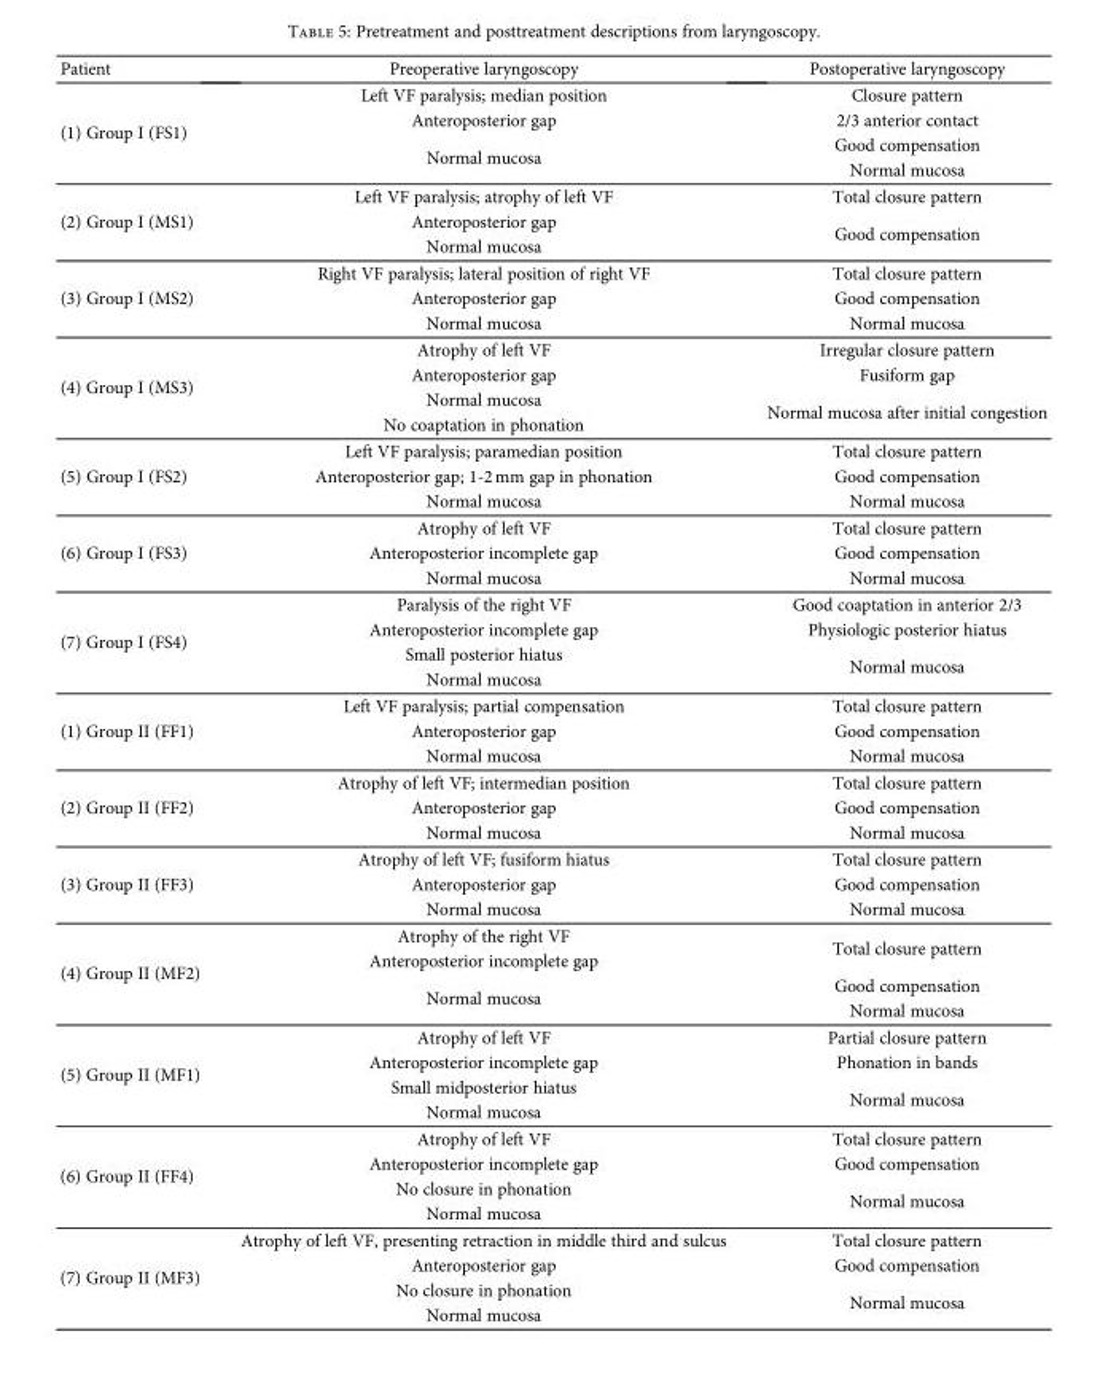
<table><thead><tr><td>Patient</td><td>Preoperative laryngoscopy</td><td>Postoperative laryngoscopy</td></tr></thead><tbody><tr><td rowspan="4">(1) Group I (FS1)</td><td>Left VF paralysis; median position</td><td>Closure pattern</td></tr><tr><td>Anteroposterior gap</td><td>2/3 anterior contact</td></tr><tr><td rowspan="2">Normal mucosa</td><td>Good compensation</td></tr><tr><td>Normal mucosa</td></tr><tr><td rowspan="3">(2) Group I (MS1)</td><td>Left VF paralysis; atrophy of left VF</td><td>Total closure pattern</td></tr><tr><td>Anteroposterior gap</td><td rowspan="2">Good compensation</td></tr><tr><td>Normal mucosa</td></tr><tr><td rowspan="3">(3) Group I (MS2)</td><td>Right VF paralysis; lateral position of right VF</td><td>Total closure pattern</td></tr><tr><td>Anteroposterior gap</td><td>Good compensation</td></tr><tr><td>Normal mucosa</td><td>Normal mucosa</td></tr><tr><td rowspan="4">(4) Group I (MS3)</td><td>Atrophy of left VF</td><td>Irregular closure pattern</td></tr><tr><td>Anteroposterior gap</td><td>Fusiform gap</td></tr><tr><td>Normal mucosa</td><td rowspan="2">Normal mucosa after initial congestion</td></tr><tr><td>No coaptation in phonation</td></tr><tr><td rowspan="3">(5) Group I (FS2)</td><td>Left VF paralysis; paramedian position</td><td>Total closure pattern</td></tr><tr><td>Anteroposterior gap; 1-2 mm gap in phonation</td><td>Good compensation</td></tr><tr><td>Normal mucosa</td><td>Normal mucosa</td></tr><tr><td rowspan="3">(6) Group I (FS3)</td><td>Atrophy of left VF</td><td>Total closure pattern</td></tr><tr><td>Anteroposterior incomplete gap</td><td>Good compensation</td></tr><tr><td>Normal mucosa</td><td>Normal mucosa</td></tr><tr><td rowspan="4">(7) Group I (FS4)</td><td>Paralysis of the right VF</td><td>Good coaptation in anterior 2/3</td></tr><tr><td>Anteroposterior incomplete gap</td><td>Physiologic posterior hiatus</td></tr><tr><td>Small posterior hiatus</td><td rowspan="2">Normal mucosa</td></tr><tr><td>Normal mucosa</td></tr><tr><td rowspan="3">(1) Group II (FF1)</td><td>Left VF paralysis; partial compensation</td><td>Total closure pattern</td></tr><tr><td>Anteroposterior gap</td><td>Good compensation</td></tr><tr><td>Normal mucosa</td><td>Normal mucosa</td></tr><tr><td rowspan="3">(2) Group II (FF2)</td><td>Atrophy of left VF; intermedian position</td><td>Total closure pattern</td></tr><tr><td>Anteroposterior gap</td><td>Good compensation</td></tr><tr><td>Normal mucosa</td><td>Normal mucosa</td></tr><tr><td rowspan="3">(3) Group II (FF3)</td><td>Atrophy of left VF; fusiform hiatus</td><td>Total closure pattern</td></tr><tr><td>Anteroposterior gap</td><td>Good compensation</td></tr><tr><td>Normal mucosa</td><td>Normal mucosa</td></tr><tr><td rowspan="4">(4) Group II (MF2)</td><td>Atrophy of the right VF</td><td rowspan="2">Total closure pattern</td></tr><tr><td>Anteroposterior incomplete gap</td></tr><tr><td rowspan="2">Normal mucosa</td><td>Good compensation</td></tr><tr><td>Normal mucosa</td></tr><tr><td rowspan="4">(5) Group II (MF1)</td><td>Atrophy of left VF</td><td>Partial closure pattern</td></tr><tr><td>Anteroposterior incomplete gap</td><td>Phonation in bands</td></tr><tr><td>Small midposterior hiatus</td><td rowspan="2">Normal mucosa</td></tr><tr><td>Normal mucosa</td></tr><tr><td rowspan="4">(6) Group II (FF4)</td><td>Atrophy of left VF</td><td>Total closure pattern</td></tr><tr><td>Anteroposterior incomplete gap</td><td>Good compensation</td></tr><tr><td>No closure in phonation</td><td rowspan="2">Normal mucosa</td></tr><tr><td>Normal mucosa</td></tr><tr><td rowspan="4">(7) Group II (MF3)</td><td>Atrophy of left VF, presenting retraction in middle third and sulcus</td><td>Total closure pattern</td></tr><tr><td>Anteroposterior gap</td><td>Good compensation</td></tr><tr><td>No closure in phonation</td><td rowspan="2">Normal mucosa</td></tr><tr><td>Normal mucosa</td></tr></tbody></table>